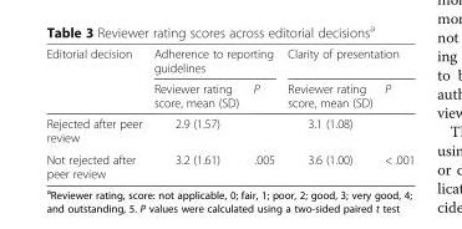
<table><thead><tr><td rowspan="2">Editorial decision</td><td colspan="2">Adherence to reporting guidelines</td><td colspan="2">Clarity of presentation</td></tr><tr><td>Reviewer rating score, mean (SD)</td><td>P</td><td>Reviewer rating score, mean (SD)</td><td>P</td></tr></thead><tbody><tr><td>Rejected after peer review</td><td>2.9 (1.57)</td><td></td><td>3.1 (1.08)</td><td></td></tr><tr><td>Not rejected after peer review</td><td>3.2 (1.61)</td><td>.005</td><td>3.6 (1.00)</td><td>&lt; .001</td></tr></tbody></table>